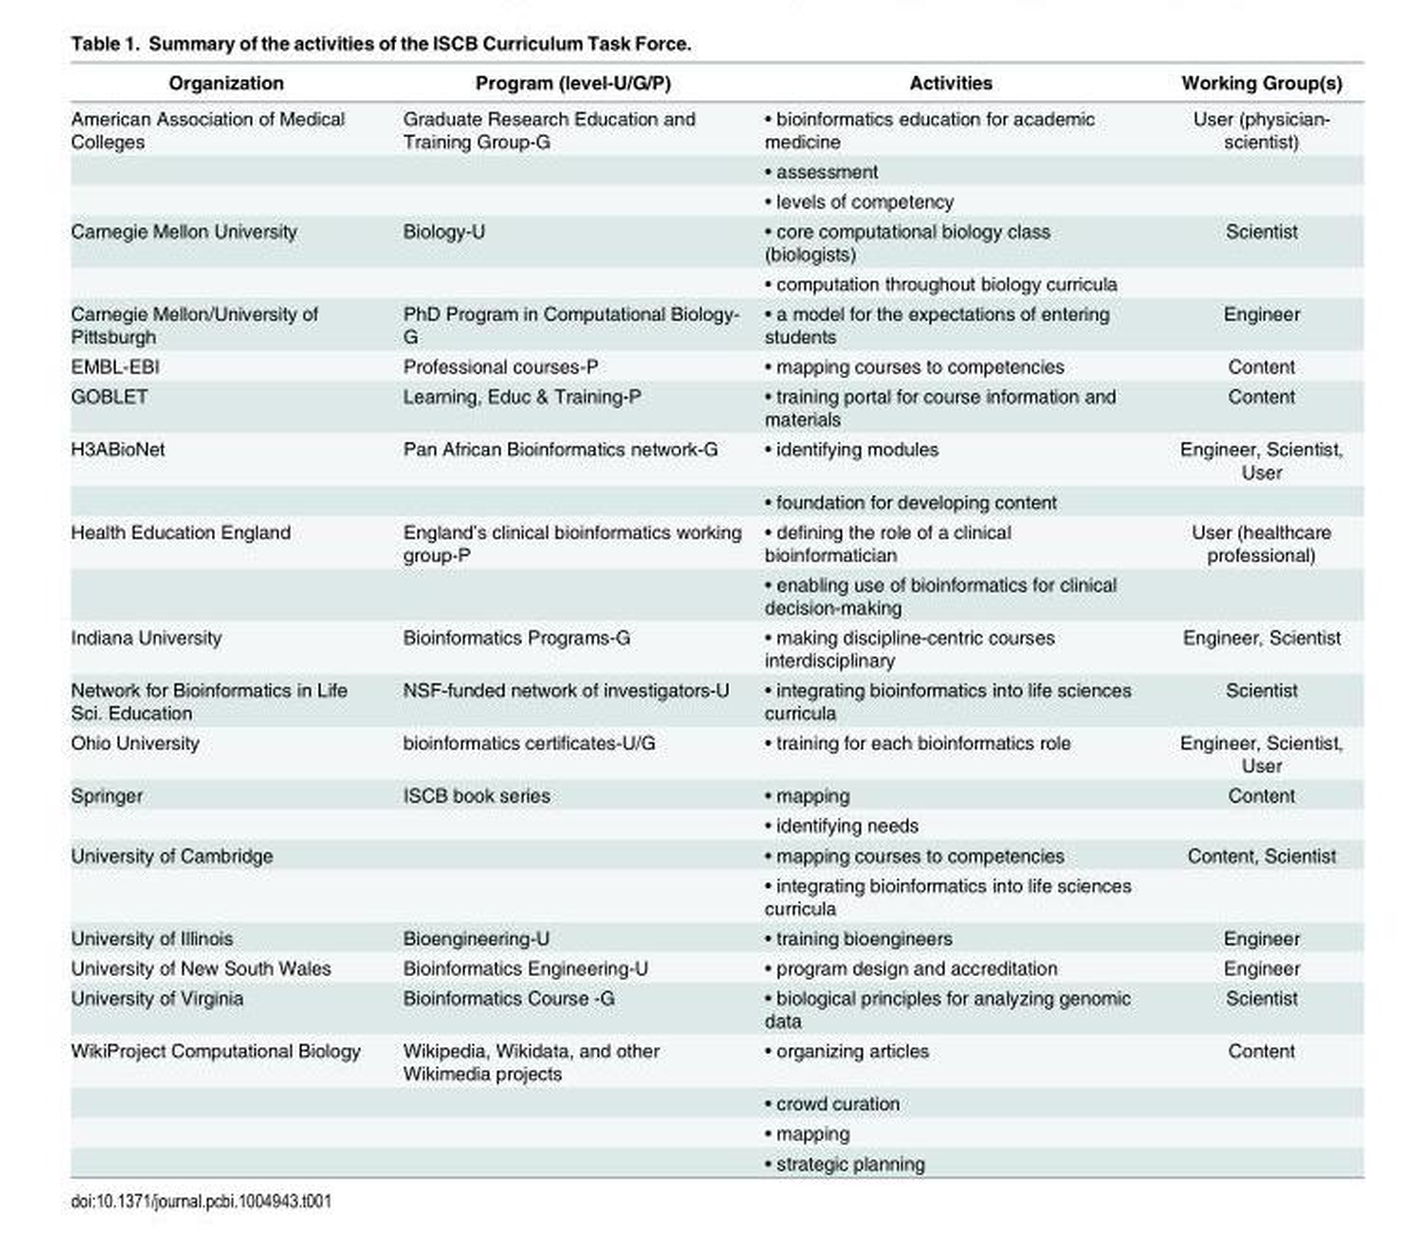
<table><thead><tr><td>Organization</td><td>Program (level-U/G/P)</td><td>Activities</td><td>Working Group(s)</td></tr></thead><tbody><tr><td rowspan="3">American Association of Medical Colleges</td><td>Graduate Research Education and Training Group-G</td><td>• bioinformatics education for academic medicine</td><td>User (physician- scientist)</td></tr><tr><td></td><td>• assessment</td><td></td></tr><tr><td></td><td>• levels of competency</td><td></td></tr><tr><td rowspan="2">Carnegie Mellon University</td><td>Biology-U</td><td>• core computational biology class (biologists)</td><td>Scientist</td></tr><tr><td></td><td>• computation throughout biology curricula</td><td></td></tr><tr><td>Carnegie Mellon/University of Pittsburgh</td><td>PhD Program in Computational Biology- G</td><td>• a model for the expectations of entering students</td><td>Engineer</td></tr><tr><td>EMBL-EBI</td><td>Professional courses-P</td><td>• mapping courses to competencies</td><td>Content</td></tr><tr><td>GOBLET</td><td>Learning, Educ &amp; Training-P</td><td>• training portal for course information and materials</td><td>Content</td></tr><tr><td rowspan="2">H3ABioNet</td><td>Pan African Bioinformatics network-G</td><td>• identifying modules</td><td>Engineer, Scientist, User</td></tr><tr><td></td><td>• foundation for developing content</td><td></td></tr><tr><td rowspan="2">Health Education England</td><td>England’s clinical bioinformatics working group-P</td><td>• defining the role of a clinical bioinformatician</td><td>User (healthcare professional)</td></tr><tr><td></td><td>• enabling use of bioinformatics for clinical decision-making</td><td></td></tr><tr><td>Indiana University</td><td>Bioinformatics Programs-G</td><td>• making discipline-centric courses interdisciplinary</td><td>Engineer, Scientist</td></tr><tr><td>Network for Bioinformatics in Life Sci. Education</td><td>NSF-funded network of investigators-U</td><td>• integrating bioinformatics into life sciences curricula</td><td>Scientist</td></tr><tr><td>Ohio University</td><td>bioinformatics certificates-U/G</td><td>• training for each bioinformatics role</td><td>Engineer, Scientist, User</td></tr><tr><td rowspan="2">Springer</td><td>ISCB book series</td><td>• mapping</td><td>Content</td></tr><tr><td></td><td>• identifying needs</td><td></td></tr><tr><td rowspan="2">University of Cambridge</td><td></td><td>• mapping courses to competencies</td><td>Content, Scientist</td></tr><tr><td></td><td>• integrating bioinformatics into life sciences curricula</td><td></td></tr><tr><td>University of Illinois</td><td>Bioengineering-U</td><td>• training bioengineers</td><td>Engineer</td></tr><tr><td>University of New South Wales</td><td>Bioinformatics Engineering-U</td><td>• program design and accreditation</td><td>Engineer</td></tr><tr><td>University of Virginia</td><td>Bioinformatics Course -G</td><td>• biological principles for analyzing genomic data</td><td>Scientist</td></tr><tr><td rowspan="4">WikiProject Computational Biology</td><td>Wikipedia, Wikidata, and other Wikimedia projects</td><td>• organizing articles</td><td>Content</td></tr><tr><td></td><td>• crowd curation</td><td></td></tr><tr><td></td><td>• mapping</td><td></td></tr><tr><td></td><td>• strategic planning</td><td></td></tr></tbody></table>